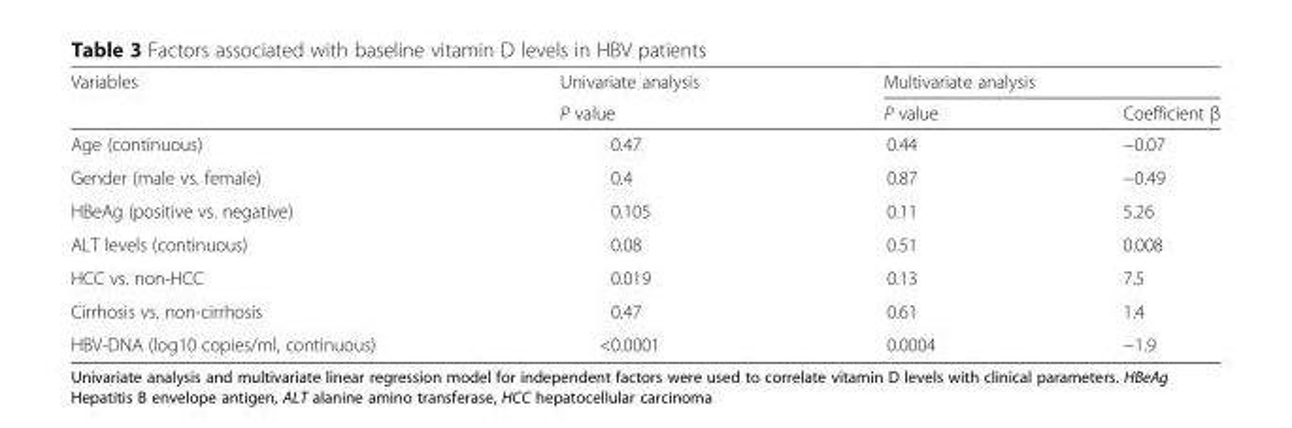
<table><thead><tr><td rowspan="2">Variables</td><td rowspan="2">Univariate analysis P value</td><td colspan="2">Multivariate analysis</td></tr><tr><td>P value</td><td>Coefficient β</td></tr></thead><tbody><tr><td>Age (continuous)</td><td>0.47</td><td>0.44</td><td>−0.07</td></tr><tr><td>Gender (male vs. female)</td><td>0.4</td><td>0.87</td><td>−0.49</td></tr><tr><td>HBeAg (positive vs. negative)</td><td>0.105</td><td>0.11</td><td>5.26</td></tr><tr><td>ALT levels (continuous)</td><td>0.08</td><td>0.51</td><td>0.008</td></tr><tr><td>HCC vs. non-HCC</td><td>0.019</td><td>0.13</td><td>7.5</td></tr><tr><td>Cirrhosis vs. non-cirrhosis</td><td>0.47</td><td>0.61</td><td>1.4</td></tr><tr><td>HBV-DNA (log10 copies/ml, continuous)</td><td>&lt;0.0001</td><td>0.0004</td><td>−1.9</td></tr></tbody></table>